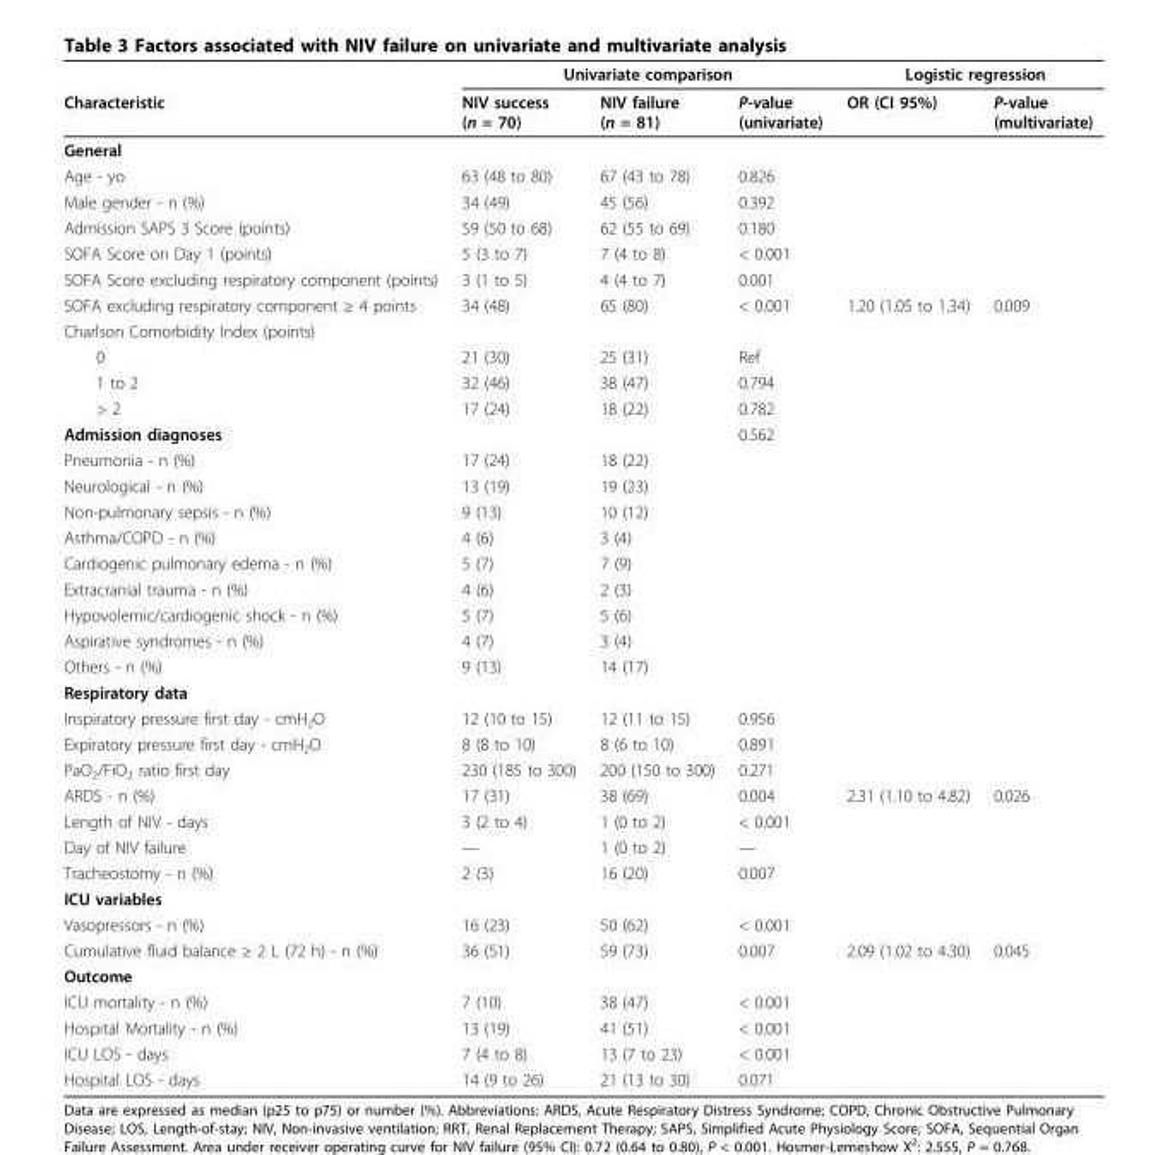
<table><thead><tr><td rowspan="2">Characteristic</td><td colspan="3">Univariate comparison</td><td colspan="2">Logistic regression</td></tr><tr><td>NIV success (n = 70)</td><td>NIV failure (n = 81)</td><td>P-value (univariate)</td><td>OR (CI 95%)</td><td>P-value (multivariate)</td></tr></thead><tbody><tr><td colspan="6">General</td></tr><tr><td>Age - yo</td><td>63 (48 to 80)</td><td>67 (43 to 78)</td><td>0.826</td><td></td><td></td></tr><tr><td>Male gender - n (%)</td><td>34 (49)</td><td>45 (56)</td><td>0.392</td><td></td><td></td></tr><tr><td>Admission SAPS 3 Score (points)</td><td>59 (50 to 68)</td><td>62 (55 to 69)</td><td>0.180</td><td></td><td></td></tr><tr><td>SOFA Score on Day 1 (points)</td><td>5 (3 to 7)</td><td>7 (4 to 8)</td><td>&lt; 0.001</td><td></td><td></td></tr><tr><td>SOFA Score excluding respiratory component (points)</td><td>3 (1 to 5)</td><td>4 (4 to 7)</td><td>0.001</td><td></td><td></td></tr><tr><td>SOFA excluding respiratory component ≥ 4 points</td><td>34 (48)</td><td>65 (80)</td><td>&lt; 0.001</td><td>1.20 (1.05 to 1.34)</td><td>0.009</td></tr><tr><td colspan="6">Charlson Comorbidity Index (points)</td></tr><tr><td>0</td><td>21 (30)</td><td>25 (31)</td><td>Ref</td><td></td><td></td></tr><tr><td>1 to 2</td><td>32 (46)</td><td>38 (47)</td><td>0.794</td><td></td><td></td></tr><tr><td>&gt; 2</td><td>17 (24)</td><td>18 (22)</td><td>0.782</td><td></td><td></td></tr><tr><td>Admission diagnoses</td><td></td><td></td><td>0.562</td><td></td><td></td></tr><tr><td>Pneumonia - n (%)</td><td>17 (24)</td><td>18 (22)</td><td></td><td></td><td></td></tr><tr><td>Neurological - n (%)</td><td>13 (19)</td><td>19 (23)</td><td></td><td></td><td></td></tr><tr><td>Non-pulmonary sepsis - n (%)</td><td>9 (13)</td><td>10 (12)</td><td></td><td></td><td></td></tr><tr><td>Asthma/COPD - n (%)</td><td>4 (6)</td><td>3 (4)</td><td></td><td></td><td></td></tr><tr><td>Cardiogenic pulmonary edema - n (%)</td><td>5 (7)</td><td>7 (9)</td><td></td><td></td><td></td></tr><tr><td>Extracranial trauma - n (%)</td><td>4 (6)</td><td>2 (3)</td><td></td><td></td><td></td></tr><tr><td>Hypovolemic/cardiogenic shock - n (%)</td><td>5 (7)</td><td>5 (6)</td><td></td><td></td><td></td></tr><tr><td>Aspirative syndromes - n (%)</td><td>4 (7)</td><td>3 (4)</td><td></td><td></td><td></td></tr><tr><td>Others - n (%)</td><td>9 (13)</td><td>14 (17)</td><td></td><td></td><td></td></tr><tr><td colspan="6">Respiratory data</td></tr><tr><td>Inspiratory pressure first day - cmH<sub>2</sub>O</td><td>12 (10 to 15)</td><td>12 (11 to 15)</td><td>0.956</td><td></td><td></td></tr><tr><td>Expiratory pressure first day - cmH<sub>2</sub>O</td><td>8 (8 to 10)</td><td>8 (6 to 10)</td><td>0.891</td><td></td><td></td></tr><tr><td>PaO<sub>2</sub>/FiO<sub>2</sub> ratio first day</td><td>230 (185 to 300)</td><td>200 (150 to 300)</td><td>0.271</td><td></td><td></td></tr><tr><td>ARDS - n (%)</td><td>17 (31)</td><td>38 (69)</td><td>0.004</td><td>2.31 (1.10 to 4.82)</td><td>0.026</td></tr><tr><td>Length of NIV - days</td><td>3 (2 to 4)</td><td>1 (0 to 2)</td><td>&lt; 0.001</td><td></td><td></td></tr><tr><td>Day of NIV failure</td><td>—</td><td>1 (0 to 2)</td><td>—</td><td></td><td></td></tr><tr><td>Tracheostomy - n (%)</td><td>2 (3)</td><td>16 (20)</td><td>0.007</td><td></td><td></td></tr><tr><td colspan="6">ICU variables</td></tr><tr><td>Vasopressors - n (%)</td><td>16 (23)</td><td>50 (62)</td><td>&lt; 0.001</td><td></td><td></td></tr><tr><td>Cumulative fluid balance ≥ 2 L (72 h) - n (%)</td><td>36 (51)</td><td>59 (73)</td><td>0.007</td><td>2.09 (1.02 to 4.30)</td><td>0.045</td></tr><tr><td colspan="6">Outcome</td></tr><tr><td>ICU mortality - n (%)</td><td>7 (10)</td><td>38 (47)</td><td>&lt; 0.001</td><td></td><td></td></tr><tr><td>Hospital Mortality - n (%)</td><td>13 (19)</td><td>41 (51)</td><td>&lt; 0.001</td><td></td><td></td></tr><tr><td>ICU LOS - days</td><td>7 (4 to 8)</td><td>13 (7 to 23)</td><td>&lt; 0.001</td><td></td><td></td></tr><tr><td>Hospital LOS - days</td><td>14 (9 to 26)</td><td>21 (13 to 30)</td><td>0.071</td><td></td><td></td></tr></tbody></table>